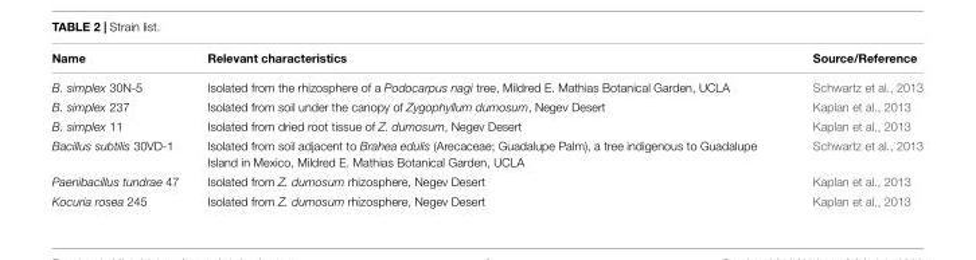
<table><thead><tr><td>Name</td><td>Relevant characteristics</td><td>Source/Reference</td></tr></thead><tbody><tr><td>B. simplex 30N-5</td><td>Isolated from the rhizosphere of a Podocarpus nagi tree, Mildred E. Mathias Botanical Garden, UCLA</td><td>Schwartz et al., 2013</td></tr><tr><td>B. simplex 237</td><td>Isolated from soil under the canopy of Zygophyllum dumosum, Negev Desert</td><td>Kaplan et al., 2013</td></tr><tr><td>B. simplex 11</td><td>Isolated from dried root tissue of Z. dumosum, Negev Desert</td><td>Kaplan et al., 2013</td></tr><tr><td>Bacillus subtilis 30VD-1</td><td>Isolated from soil adjacent to Brahea edulis (Arecaceae; Guadalupe Palm), a tree indigenous to Guadalupe Island in Mexico, Mildred E. Mathias Botanical Garden, UCLA</td><td>Schwartz et al., 2013</td></tr><tr><td>Paenibacillus tundrae 47</td><td>Isolated from Z. dumosum rhizosphere, Negev Desert</td><td>Kaplan et al., 2013</td></tr><tr><td>Kocuria rosea 245</td><td>Isolated from Z. dumosum rhizosphere, Negev Desert</td><td>Kaplan et al., 2013</td></tr></tbody></table>